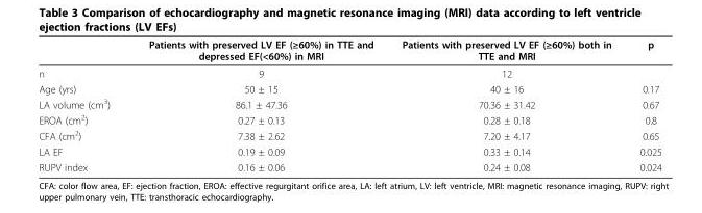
<table><thead><tr><td></td><td>Patients with preserved LV EF (≥60%) in TTE and depressed EF(&lt;60%) in MRI</td><td>Patients with preserved LV EF (≥60%) both in TTE and MRI</td><td>p</td></tr></thead><tbody><tr><td>n</td><td>9</td><td>12</td><td></td></tr><tr><td>Age (yrs)</td><td>50 ± 15</td><td>40 ± 16</td><td>0.17</td></tr><tr><td>LA volume (cm<sup>3</sup>)</td><td>86.1 ± 47.36</td><td>70.36 ± 31.42</td><td>0.67</td></tr><tr><td>EROA (cm<sup>2</sup>)</td><td>0.27 ± 0.13</td><td>0.28 ± 0.18</td><td>0.8</td></tr><tr><td>CFA (cm<sup>2</sup>)</td><td>7.38 ± 2.62</td><td>7.20 ± 4.17</td><td>0.65</td></tr><tr><td>LA EF</td><td>0.19 ± 0.09</td><td>0.33 ± 0.14</td><td>0.025</td></tr><tr><td>RUPV index</td><td>0.16 ± 0.06</td><td>0.24 ± 0.08</td><td>0.024</td></tr></tbody></table>